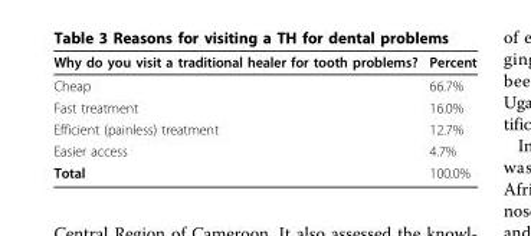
<table><thead><tr><td>Why do you visit a traditional healer for tooth problems?</td><td>Percent</td></tr></thead><tbody><tr><td>Cheap</td><td>66.7%</td></tr><tr><td>Fast treatment</td><td>16.0%</td></tr><tr><td>Efficient (painless) treatment</td><td>12.7%</td></tr><tr><td>Easier access</td><td>4.7%</td></tr><tr><td>Total</td><td>100.0%</td></tr></tbody></table>